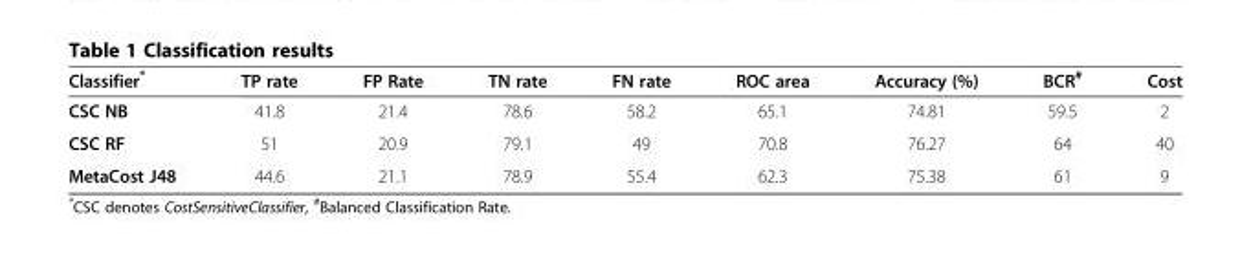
<table><thead><tr><td>Classifier*</td><td>TP rate</td><td>FP Rate</td><td>TN rate</td><td>FN rate</td><td>ROC area</td><td>Accuracy (%)</td><td>BCR<sup>#</sup></td><td>Cost</td></tr></thead><tbody><tr><td>CSC NB</td><td>41.8</td><td>21.4</td><td>78.6</td><td>58.2</td><td>65.1</td><td>74.81</td><td>59.5</td><td>2</td></tr><tr><td>CSC RF</td><td>51</td><td>20.9</td><td>79.1</td><td>49</td><td>70.8</td><td>76.27</td><td>64</td><td>40</td></tr><tr><td>MetaCost J48</td><td>44.6</td><td>21.1</td><td>78.9</td><td>55.4</td><td>62.3</td><td>75.38</td><td>61</td><td>9</td></tr></tbody></table>